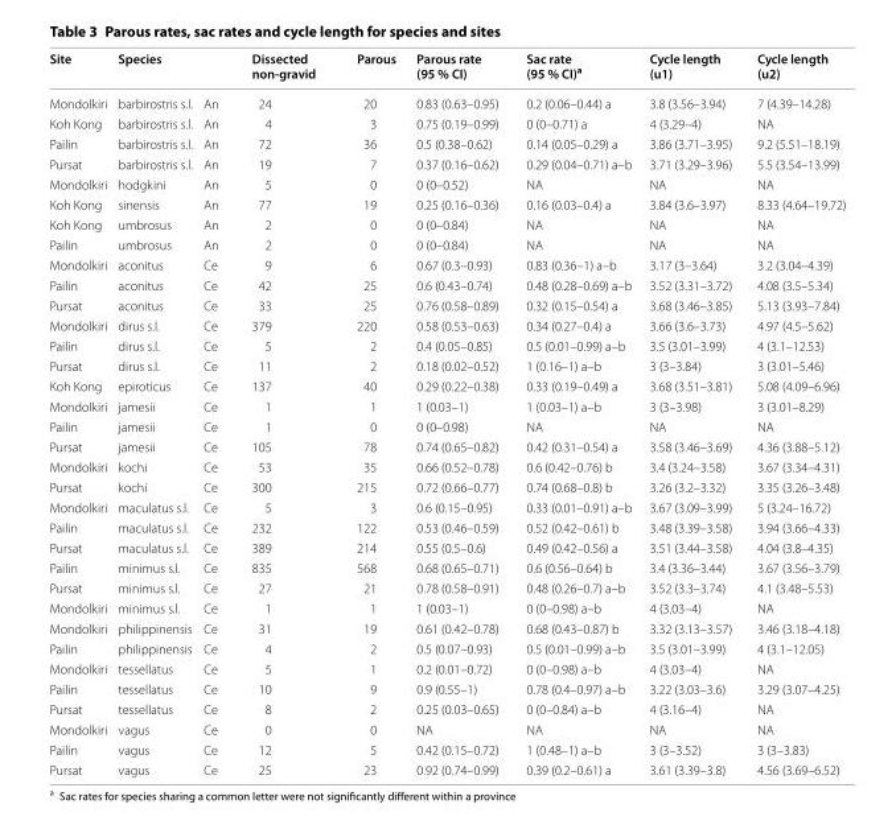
<table><thead><tr><td rowspan="2">Site Mondolkiri</td><td colspan="2">Species</td><td rowspan="2">Dissected non-gravid 24</td><td rowspan="2">Parous 20</td><td rowspan="2">Parous rate (95 % CI) 0.83 (0.63–0.95)</td><td rowspan="2">Sac rate (95 % CI)<sup>a</sup> 0.2 (0.06–0.44) a</td><td rowspan="2">Cycle length (u1) 3.8 (3.56–3.94)</td><td rowspan="2">Cycle length (u2) 7 (4.39–14.28)</td></tr><tr><td>barbirostris s.l.</td><td>An</td></tr></thead><tbody><tr><td>Koh Kong</td><td>barbirostris s.l.</td><td>An</td><td>4</td><td>3</td><td>0.75 (0.19–0.99)</td><td>0 (0–0.71) a</td><td>4 (3.29–4)</td><td>NA</td></tr><tr><td>Pailin</td><td>barbirostris s.l.</td><td>An</td><td>72</td><td>36</td><td>0.5 (0.38–0.62)</td><td>0.14 (0.05–0.29) a</td><td>3.86 (3.71–3.95)</td><td>9.2 (5.51–18.19)</td></tr><tr><td>Pursat</td><td>barbirostris s.l.</td><td>An</td><td>19</td><td>7</td><td>0.37 (0.16–0.62)</td><td>0.29 (0.04–0.71) a–b</td><td>3.71 (3.29–3.96)</td><td>5.5 (3.54–13.99)</td></tr><tr><td>Mondolkiri</td><td>hodgkini</td><td>An</td><td>5</td><td>0</td><td>0 (0–0.52)</td><td>NA</td><td>NA</td><td>NA</td></tr><tr><td>Koh Kong</td><td>sinensis</td><td>An</td><td>77</td><td>19</td><td>0.25 (0.16–0.36)</td><td>0.16 (0.03–0.4) a</td><td>3.84 (3.6–3.97)</td><td>8.33 (4.64–19.72)</td></tr><tr><td>Koh Kong</td><td>umbrosus</td><td>An</td><td>2</td><td>0</td><td>0 (0–0.84)</td><td>NA</td><td>NA</td><td>NA</td></tr><tr><td>Pailin</td><td>umbrosus</td><td>An</td><td>2</td><td>0</td><td>0 (0–0.84)</td><td>NA</td><td>NA</td><td>NA</td></tr><tr><td>Mondolkiri</td><td>aconitus</td><td>Ce</td><td>9</td><td>6</td><td>0.67 (0.3–0.93)</td><td>0.83 (0.36–1) a–b</td><td>3.17 (3–3.64)</td><td>3.2 (3.04–4.39)</td></tr><tr><td>Pailin</td><td>aconitus</td><td>Ce</td><td>42</td><td>25</td><td>0.6 (0.43–0.74)</td><td>0.48 (0.28–0.69) a–b</td><td>3.52 (3.31–3.72)</td><td>4.08 (3.5–5.34)</td></tr><tr><td>Pursat</td><td>aconitus</td><td>Ce</td><td>33</td><td>25</td><td>0.76 (0.58–0.89)</td><td>0.32 (0.15–0.54) a</td><td>3.68 (3.46–3.85)</td><td>5.13 (3.93–7.84)</td></tr><tr><td>Mondolkiri</td><td>dirus s.l.</td><td>Ce</td><td>379</td><td>220</td><td>0.58 (0.53–0.63)</td><td>0.34 (0.27–0.4) a</td><td>3.66 (3.6–3.73)</td><td>4.97 (4.5–5.62)</td></tr><tr><td>Pailin</td><td>dirus s.l.</td><td>Ce</td><td>5</td><td>2</td><td>0.4 (0.05–0.85)</td><td>0.5 (0.01–0.99) a–b</td><td>3.5 (3.01–3.99)</td><td>4 (3.1–12.53)</td></tr><tr><td>Pursat</td><td>dirus s.l.</td><td>Ce</td><td>11</td><td>2</td><td>0.18 (0.02–0.52)</td><td>1 (0.16–1) a–b</td><td>3 (3–3.84)</td><td>3 (3.01–5.46)</td></tr><tr><td>Koh Kong</td><td>epiroticus</td><td>Ce</td><td>137</td><td>40</td><td>0.29 (0.22–0.38)</td><td>0.33 (0.19–0.49) a</td><td>3.68 (3.51–3.81)</td><td>5.08 (4.09–6.96)</td></tr><tr><td>Mondolkiri</td><td>jamesii</td><td>Ce</td><td>1</td><td>1</td><td>1 (0.03–1)</td><td>1 (0.03–1) a–b</td><td>3 (3–3.98)</td><td>3 (3.01–8.29)</td></tr><tr><td>Pailin</td><td>jamesii</td><td>Ce</td><td>1</td><td>0</td><td>0 (0–0.98)</td><td>NA</td><td>NA</td><td>NA</td></tr><tr><td>Pursat</td><td>jamesii</td><td>Ce</td><td>105</td><td>78</td><td>0.74 (0.65–0.82)</td><td>0.42 (0.31–0.54) a</td><td>3.58 (3.46–3.69)</td><td>4.36 (3.88–5.12)</td></tr><tr><td>Mondolkiri</td><td>kochi</td><td>Ce</td><td>53</td><td>35</td><td>0.66 (0.52–0.78)</td><td>0.6 (0.42–0.76) b</td><td>3.4 (3.24–3.58)</td><td>3.67 (3.34–4.31)</td></tr><tr><td>Pursat</td><td>kochi</td><td>Ce</td><td>300</td><td>215</td><td>0.72 (0.66–0.77)</td><td>0.74 (0.68–0.8) b</td><td>3.26 (3.2–3.32)</td><td>3.35 (3.26–3.48)</td></tr><tr><td>Mondolkiri</td><td>maculatus s.l.</td><td>Ce</td><td>5</td><td>3</td><td>0.6 (0.15–0.95)</td><td>0.33 (0.01–0.91) a–b</td><td>3.67 (3.09–3.99)</td><td>5 (3.24–16.72)</td></tr><tr><td>Pailin</td><td>maculatus s.l.</td><td>Ce</td><td>232</td><td>122</td><td>0.53 (0.46–0.59)</td><td>0.52 (0.42–0.61) b</td><td>3.48 (3.39–3.58)</td><td>3.94 (3.66–4.33)</td></tr><tr><td>Pursat</td><td>maculatus s.l.</td><td>Ce</td><td>389</td><td>214</td><td>0.55 (0.5–0.6)</td><td>0.49 (0.42–0.56) a</td><td>3.51 (3.44–3.58)</td><td>4.04 (3.8–4.35)</td></tr><tr><td>Pailin</td><td>minimus s.l.</td><td>Ce</td><td>835</td><td>568</td><td>0.68 (0.65–0.71)</td><td>0.6 (0.56–0.64) b</td><td>3.4 (3.36–3.44)</td><td>3.67 (3.56–3.79)</td></tr><tr><td>Pursat</td><td>minimus s.l.</td><td>Ce</td><td>27</td><td>21</td><td>0.78 (0.58–0.91)</td><td>0.48 (0.26–0.7) a–b</td><td>3.52 (3.3–3.74)</td><td>4.1 (3.48–5.53)</td></tr><tr><td>Mondolkiri</td><td>minimus s.l.</td><td>Ce</td><td>1</td><td>1</td><td>1 (0.03–1)</td><td>0 (0–0.98) a–b</td><td>4 (3.03–4)</td><td>NA</td></tr><tr><td>Mondolkiri</td><td>philippinensis</td><td>Ce</td><td>31</td><td>19</td><td>0.61 (0.42–0.78)</td><td>0.68 (0.43–0.87) b</td><td>3.32 (3.13–3.57)</td><td>3.46 (3.18–4.18)</td></tr><tr><td>Pailin</td><td>philippinensis</td><td>Ce</td><td>4</td><td>2</td><td>0.5 (0.07–0.93)</td><td>0.5 (0.01–0.99) a–b</td><td>3.5 (3.01–3.99)</td><td>4 (3.1–12.05)</td></tr><tr><td>Mondolkiri</td><td>tessellatus</td><td>Ce</td><td>5</td><td>1</td><td>0.2 (0.01–0.72)</td><td>0 (0–0.98) a–b</td><td>4 (3.03–4)</td><td>NA</td></tr><tr><td>Pailin</td><td>tessellatus</td><td>Ce</td><td>10</td><td>9</td><td>0.9 (0.55–1)</td><td>0.78 (0.4–0.97) a–b</td><td>3.22 (3.03–3.6)</td><td>3.29 (3.07–4.25)</td></tr><tr><td>Pursat</td><td>tessellatus</td><td>Ce</td><td>8</td><td>2</td><td>0.25 (0.03–0.65)</td><td>0 (0–0.84) a–b</td><td>4 (3.16–4)</td><td>NA</td></tr><tr><td>Mondolkiri</td><td>vagus</td><td>Ce</td><td>0</td><td>0</td><td>NA</td><td>NA</td><td>NA</td><td>NA</td></tr><tr><td>Pailin</td><td>vagus</td><td>Ce</td><td>12</td><td>5</td><td>0.42 (0.15–0.72)</td><td>1 (0.48–1) a–b</td><td>3 (3–3.52)</td><td>3 (3–3.83)</td></tr><tr><td>Pursat</td><td>vagus</td><td>Ce</td><td>25</td><td>23</td><td>0.92 (0.74–0.99)</td><td>0.39 (0.2–0.61) a</td><td>3.61 (3.39–3.8)</td><td>4.56 (3.69–6.52)</td></tr></tbody></table>